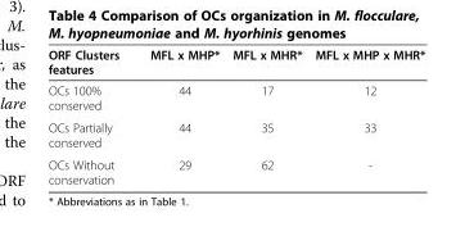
<table><thead><tr><td>ORF Clusters features</td><td>MFL x MHP*</td><td>MFL x MHR*</td><td>MFL x MHP x MHR*</td></tr></thead><tbody><tr><td>OCs 100% conserved</td><td>44</td><td>17</td><td>12</td></tr><tr><td>OCs Partially conserved</td><td>44</td><td>35</td><td>33</td></tr><tr><td>OCs Without conservation</td><td>29</td><td>62</td><td>-</td></tr></tbody></table>